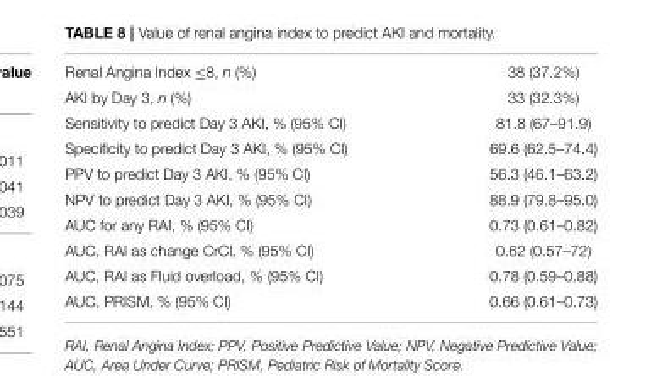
<table><tbody><tr><td>Renal Angina Index ≤8, n (%)</td><td>38 (37.2%)</td></tr><tr><td>AKI by Day 3, n (%)</td><td>33 (32.3%)</td></tr><tr><td>Sensitivity to predict Day 3 AKI, % (95% CI)</td><td>81.8 (67–91.9)</td></tr><tr><td>Specificity to predict Day 3 AKI, % (95% CI)</td><td>69.6 (62.5–74.4)</td></tr><tr><td>PPV to predict Day 3 AKI, % (95% CI)</td><td>56.3 (46.1–63.2)</td></tr><tr><td>NPV to predict Day 3 AKI, % (95% CI)</td><td>88.9 (79.8–95.0)</td></tr><tr><td>AUC for any RAI, % (95% CI)</td><td>0.73 (0.61–0.82)</td></tr><tr><td>AUC, RAI as change CrCl, % (95% CI)</td><td>0.62 (0.57–72)</td></tr><tr><td>AUC, RAI as Fluid overload, % (95% CI)</td><td>0.78 (0.59–0.88)</td></tr><tr><td>AUC, PRISM, % (95% CI)</td><td>0.66 (0.61–0.73)</td></tr></tbody></table>